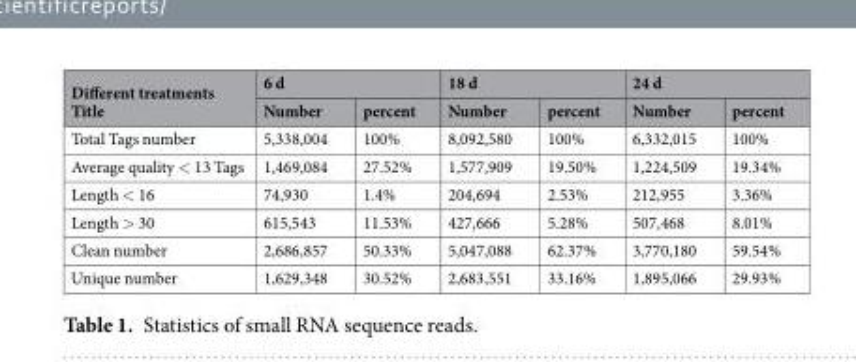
<table><thead><tr><td rowspan="2">Different treatments Title</td><td colspan="2">6 d</td><td colspan="2">18 d</td><td colspan="2">24 d</td></tr><tr><td>Number</td><td>percent</td><td>Number</td><td>percent</td><td>Number</td><td>percent</td></tr></thead><tbody><tr><td>Total Tags number</td><td>5,338,004</td><td>100%</td><td>8,092,580</td><td>100%</td><td>6,332,015</td><td>100%</td></tr><tr><td>Average quality &lt; 13 Tags</td><td>1,469,084</td><td>27.52%</td><td>1,577,909</td><td>19.50%</td><td>1,224,509</td><td>19.34%</td></tr><tr><td>Length &lt; 16</td><td>74,930</td><td>1.4%</td><td>204,694</td><td>2.53%</td><td>212,955</td><td>3.36%</td></tr><tr><td>Length &gt; 30</td><td>615,543</td><td>11.53%</td><td>427,666</td><td>5.28%</td><td>507,468</td><td>8.01%</td></tr><tr><td>Clean number</td><td>2,686,857</td><td>50.33%</td><td>5,047,088</td><td>62.37%</td><td>3,770,180</td><td>59.54%</td></tr><tr><td>Unique number</td><td>1,629,348</td><td>30.52%</td><td>2,683,551</td><td>33.16%</td><td>1,895,066</td><td>29.93%</td></tr></tbody></table>